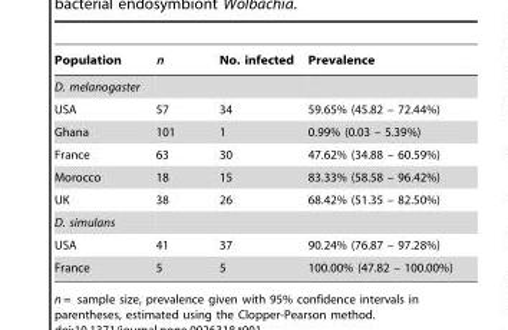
<table><thead><tr><td>Population</td><td>n</td><td>No. infected</td><td>Prevalence</td></tr></thead><tbody><tr><td colspan="4">D. melanogaster</td></tr><tr><td>USA</td><td>57</td><td>34</td><td>59.65% (45.82 – 72.44%)</td></tr><tr><td>Ghana</td><td>101</td><td>1</td><td>0.99% (0.03 – 5.39%)</td></tr><tr><td>France</td><td>63</td><td>30</td><td>47.62% (34.88 – 60.59%)</td></tr><tr><td>Morocco</td><td>18</td><td>15</td><td>83.33% (58.58 – 96.42%)</td></tr><tr><td>UK</td><td>38</td><td>26</td><td>68.42% (51.35 – 82.50%)</td></tr><tr><td colspan="4">D. simulans</td></tr><tr><td>USA</td><td>41</td><td>37</td><td>90.24% (76.87 – 97.28%)</td></tr><tr><td>France</td><td>5</td><td>5</td><td>100.00% (47.82 – 100.00%)</td></tr></tbody></table>